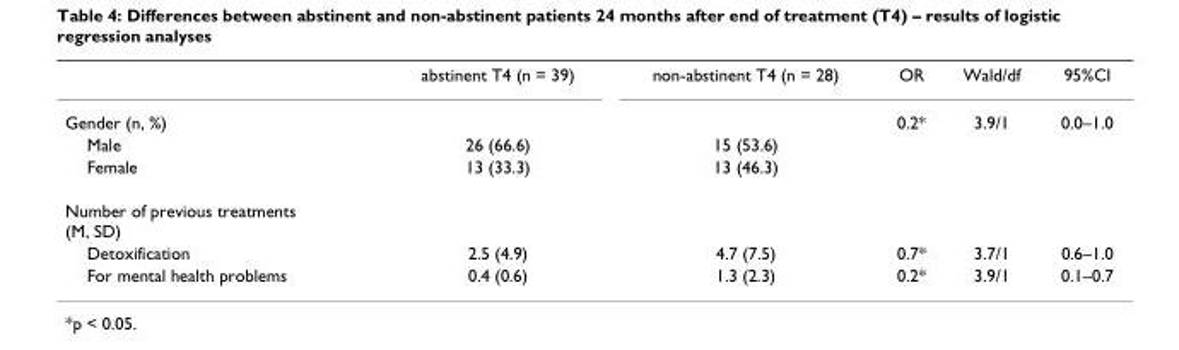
<table><thead><tr><td></td><td>abstinent T4 (n = 39)</td><td>non-abstinent T4 (n = 28)</td><td>OR</td><td>Wald/df</td><td>95%CI</td></tr></thead><tbody><tr><td>Gender (n, %)</td><td></td><td></td><td>0.2*</td><td>3.9/1</td><td>0.0–1.0</td></tr><tr><td>Male</td><td>26 (66.6)</td><td>15 (53.6)</td><td></td><td></td><td></td></tr><tr><td>Female</td><td>13 (33.3)</td><td>13 (46.3)</td><td></td><td></td><td></td></tr><tr><td colspan="6">Number of previous treatments (M, SD)</td></tr><tr><td>Detoxification</td><td>2.5 (4.9)</td><td>4.7 (7.5)</td><td>0.7*</td><td>3.7/1</td><td>0.6–1.0</td></tr><tr><td>For mental health problems</td><td>0.4 (0.6)</td><td>1.3 (2.3)</td><td>0.2*</td><td>3.9/1</td><td>0.1–0.7</td></tr></tbody></table>